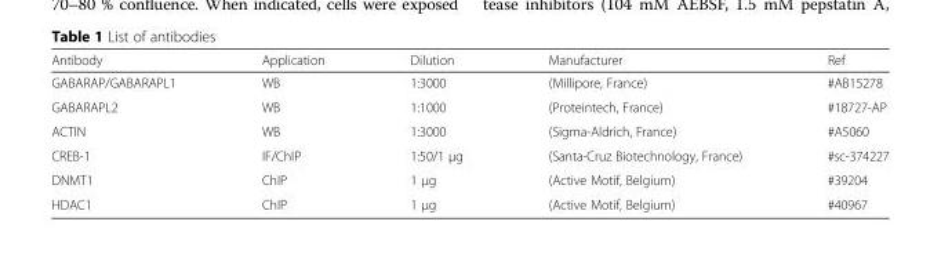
<table><thead><tr><td>Antibody</td><td>Application</td><td>Dilution</td><td>Manufacturer</td><td>Ref</td></tr></thead><tbody><tr><td>GABARAP/GABARAPL1</td><td>WB</td><td>1:3000</td><td>(Millipore, France)</td><td>#AB15278</td></tr><tr><td>GABARAPL2</td><td>WB</td><td>1:1000</td><td>(Proteintech, France)</td><td>#18727-AP</td></tr><tr><td>ACTIN</td><td>WB</td><td>1:3000</td><td>(Sigma-Aldrich, France)</td><td>#A5060</td></tr><tr><td>CREB-1</td><td>IF/ChIP</td><td>1:50/1 μg</td><td>(Santa-Cruz Biotechnology, France)</td><td>#sc-374227</td></tr><tr><td>DNMT1</td><td>ChIP</td><td>1 μg</td><td>(Active Motif, Belgium)</td><td>#39204</td></tr><tr><td>HDAC1</td><td>ChIP</td><td>1 μg</td><td>(Active Motif, Belgium)</td><td>#40967</td></tr></tbody></table>